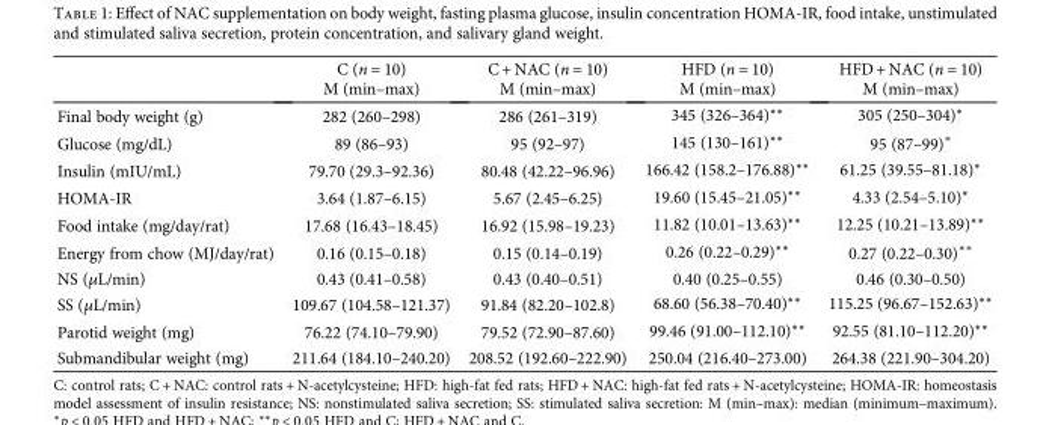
<table><thead><tr><td></td><td>C (n = 10) M (min–max)</td><td>C + NAC (n = 10) M (min–max)</td><td>HFD (n = 10) M (min–max)</td><td>HFD + NAC (n = 10) M (min–max)</td></tr></thead><tbody><tr><td>Final body weight (g)</td><td>282 (260–298)</td><td>286 (261–319)</td><td>345 (326–364)∗∗</td><td>305 (250–304)∗</td></tr><tr><td>Glucose (mg/dL)</td><td>89 (86–93)</td><td>95 (92–97)</td><td>145 (130–161)∗∗</td><td>95 (87–99)∗</td></tr><tr><td>Insulin (mIU/mL)</td><td>79.70 (29.3–92.36)</td><td>80.48 (42.22–96.96)</td><td>166.42 (158.2–176.88)∗∗</td><td>61.25 (39.55–81.18)∗</td></tr><tr><td>HOMA-IR</td><td>3.64 (1.87–6.15)</td><td>5.67 (2.45–6.25)</td><td>19.60 (15.45–21.05)∗∗</td><td>4.33 (2.54–5.10)∗</td></tr><tr><td>Food intake (mg/day/rat)</td><td>17.68 (16.43–18.45)</td><td>16.92 (15.98–19.23)</td><td>11.82 (10.01–13.63)∗∗</td><td>12.25 (10.21–13.89)∗∗</td></tr><tr><td>Energy from chow (MJ/day/rat)</td><td>0.16 (0.15–0.18)</td><td>0.15 (0.14–0.19)</td><td>0.26 (0.22–0.29)∗∗</td><td>0.27 (0.22–0.30)∗∗</td></tr><tr><td>NS (μL/min)</td><td>0.43 (0.41–0.58)</td><td>0.43 (0.40–0.51)</td><td>0.40 (0.25–0.55)</td><td>0.46 (0.30–0.50)</td></tr><tr><td>SS (μL/min)</td><td>109.67 (104.58–121.37)</td><td>91.84 (82.20–102.8)</td><td>68.60 (56.38–70.40)∗∗</td><td>115.25 (96.67–152.63)∗∗</td></tr><tr><td>Parotid weight (mg)</td><td>76.22 (74.10–79.90)</td><td>79.52 (72.90–87.60)</td><td>99.46 (91.00–112.10)∗∗</td><td>92.55 (81.10–112.20)∗∗</td></tr><tr><td>Submandibular weight (mg)</td><td>211.64 (184.10–240.20)</td><td>208.52 (192.60–222.90)</td><td>250.04 (216.40–273.00)</td><td>264.38 (221.90–304.20)</td></tr></tbody></table>